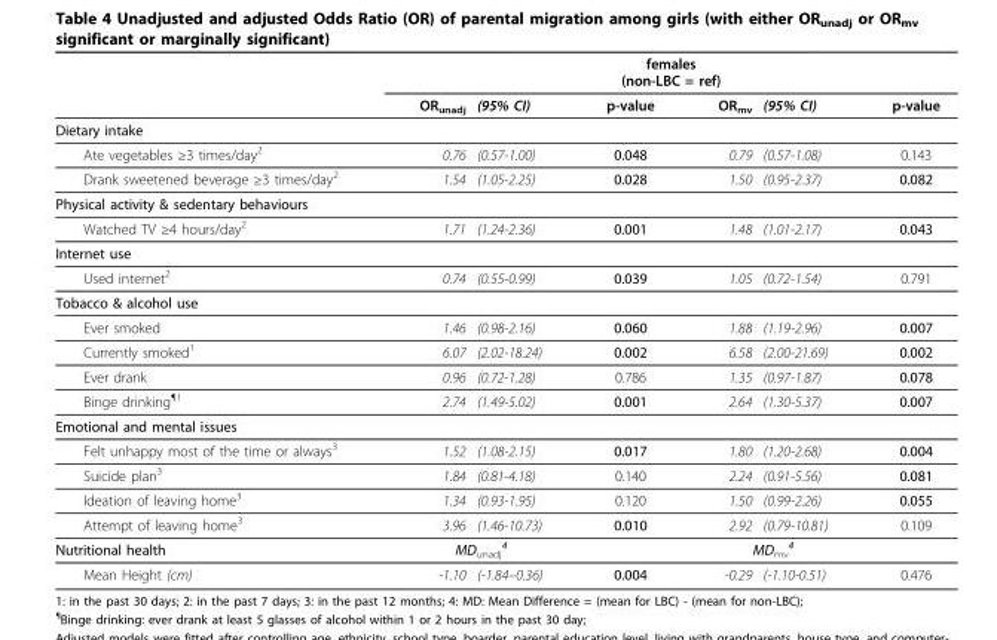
<table><thead><tr><td rowspan="2"></td><td colspan="6">females (non-LBC = ref)</td></tr><tr><td>OR<sub>unadj</sub></td><td>(95% CI)</td><td>p-value</td><td>OR<sub>mv</sub></td><td>(95% CI)</td><td>p-value</td></tr></thead><tbody><tr><td colspan="7">Dietary intake</td></tr><tr><td>Ate vegetables ≥3 times/day<sup>2</sup></td><td>0.76</td><td>(0.57-1.00)</td><td>0.048</td><td>0.79</td><td>(0.57-1.08)</td><td>0.143</td></tr><tr><td>Drank sweetened beverage ≥3 times/day<sup>2</sup></td><td>1.54</td><td>(1.05-2.25)</td><td>0.028</td><td>1.50</td><td>(0.95-2.37)</td><td>0.082</td></tr><tr><td colspan="7">Physical activity &amp; sedentary behaviours</td></tr><tr><td>Watched TV ≥4 hours/day<sup>2</sup></td><td>1.71</td><td>(1.24-2.36)</td><td>0.001</td><td>1.48</td><td>(1.01-2.17)</td><td>0.043</td></tr><tr><td colspan="7">Internet use</td></tr><tr><td>Used internet<sup>2</sup></td><td>0.74</td><td>(0.55-0.99)</td><td>0.039</td><td>1.05</td><td>(0.72-1.54)</td><td>0.791</td></tr><tr><td colspan="7">Tobacco &amp; alcohol use</td></tr><tr><td>Ever smoked</td><td>1.46</td><td>(0.98-2.16)</td><td>0.060</td><td>1.88</td><td>(1.19-2.96)</td><td>0.007</td></tr><tr><td>Currently smoked<sup>1</sup></td><td>6.07</td><td>(2.02-18.24)</td><td>0.002</td><td>6.58</td><td>(2.00-21.69)</td><td>0.002</td></tr><tr><td>Ever drank</td><td>0.96</td><td>(0.72-1.28)</td><td>0.786</td><td>1.35</td><td>(0.97-1.87)</td><td>0.078</td></tr><tr><td>Binge drinking<sup>¶1</sup></td><td>2.74</td><td>(1.49-5.02)</td><td>0.001</td><td>2.64</td><td>(1.30-5.37)</td><td>0.007</td></tr><tr><td colspan="7">Emotional and mental issues</td></tr><tr><td>Felt unhappy most of the time or always<sup>3</sup></td><td>1.52</td><td>(1.08-2.15)</td><td>0.017</td><td>1.80</td><td>(1.20-2.68)</td><td>0.004</td></tr><tr><td>Suicide plan<sup>3</sup></td><td>1.84</td><td>(0.81-4.18)</td><td>0.140</td><td>2.24</td><td>(0.91-5.56)</td><td>0.081</td></tr><tr><td>Ideation of leaving home<sup>3</sup></td><td>1.34</td><td>(0.93-1.95)</td><td>0.120</td><td>1.50</td><td>(0.99-2.26)</td><td>0.055</td></tr><tr><td>Attempt of leaving home<sup>3</sup></td><td>3.96</td><td>(1.46-10.73)</td><td>0.010</td><td>2.92</td><td>(0.79-10.81)</td><td>0.109</td></tr><tr><td>Nutritional health</td><td colspan="2">MD<sub>unadj</sub> <sup>4</sup></td><td></td><td colspan="2">MD<sub>mv</sub> <sup>4</sup></td><td></td></tr><tr><td>Mean Height (cm)</td><td>-1.10</td><td>(-1.84–0.36)</td><td>0.004</td><td>-0.29</td><td>(-1.10-0.51)</td><td>0.476</td></tr></tbody></table>